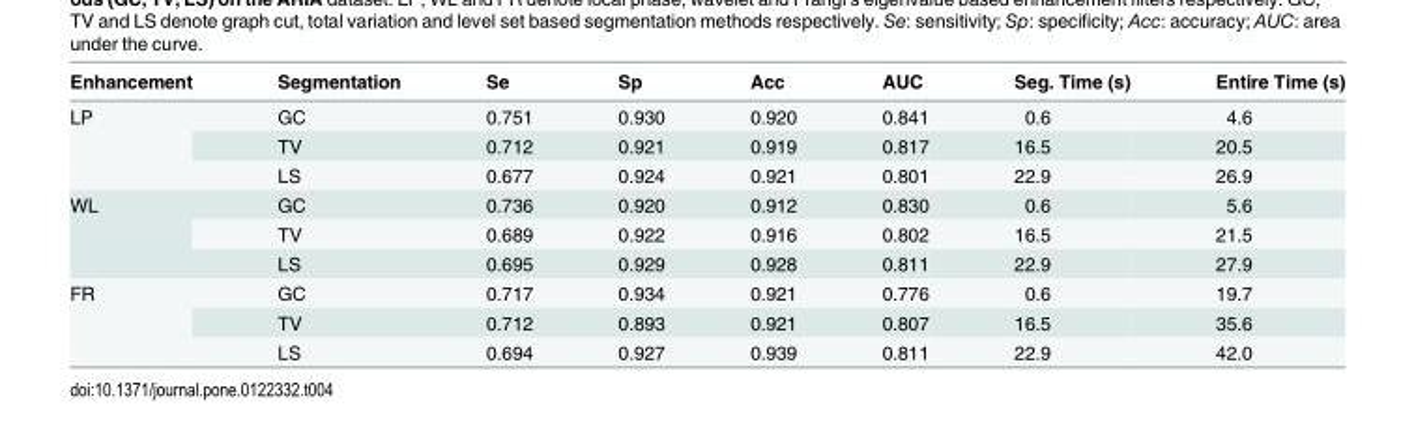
<table><thead><tr><td>Enhancement</td><td>Segmentation</td><td>Se</td><td>Sp</td><td>Acc</td><td>AUC</td><td>Seg. Time (s)</td><td>Entire Time (s)</td></tr></thead><tbody><tr><td rowspan="3">LP</td><td>GC</td><td>0.751</td><td>0.930</td><td>0.920</td><td>0.841</td><td>0.6</td><td>4.6</td></tr><tr><td>TV</td><td>0.712</td><td>0.921</td><td>0.919</td><td>0.817</td><td>16.5</td><td>20.5</td></tr><tr><td>LS</td><td>0.677</td><td>0.924</td><td>0.921</td><td>0.801</td><td>22.9</td><td>26.9</td></tr><tr><td rowspan="3">WL</td><td>GC</td><td>0.736</td><td>0.920</td><td>0.912</td><td>0.830</td><td>0.6</td><td>5.6</td></tr><tr><td>TV</td><td>0.689</td><td>0.922</td><td>0.916</td><td>0.802</td><td>16.5</td><td>21.5</td></tr><tr><td>LS</td><td>0.695</td><td>0.929</td><td>0.928</td><td>0.811</td><td>22.9</td><td>27.9</td></tr><tr><td rowspan="3">FR</td><td>GC</td><td>0.717</td><td>0.934</td><td>0.921</td><td>0.776</td><td>0.6</td><td>19.7</td></tr><tr><td>TV</td><td>0.712</td><td>0.893</td><td>0.921</td><td>0.807</td><td>16.5</td><td>35.6</td></tr><tr><td>LS</td><td>0.694</td><td>0.927</td><td>0.939</td><td>0.811</td><td>22.9</td><td>42.0</td></tr></tbody></table>